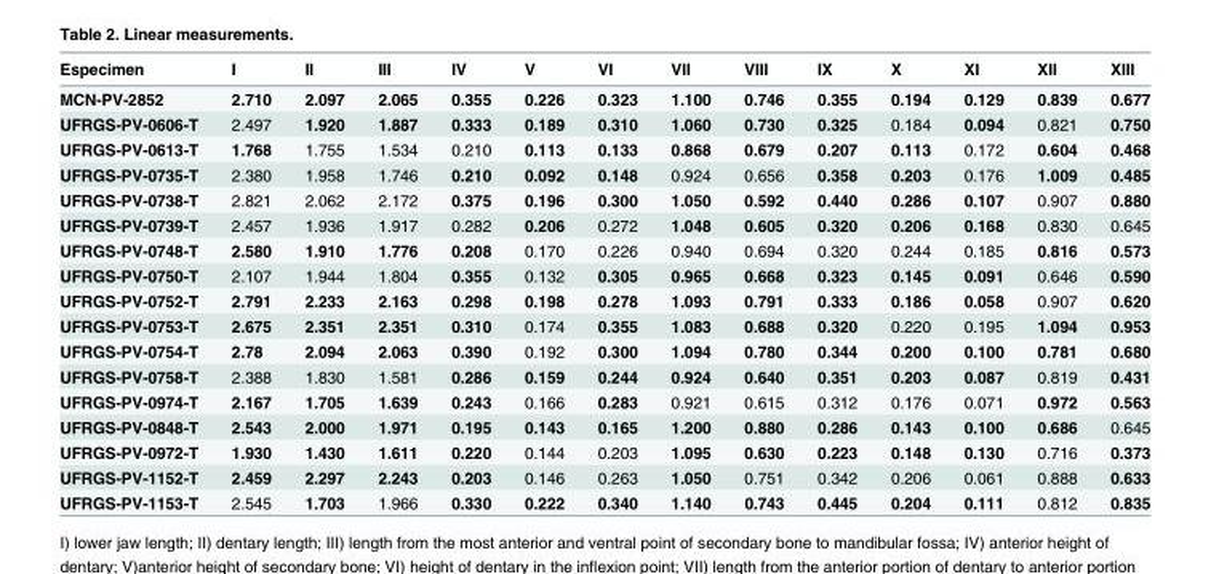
<table><thead><tr><td>Especimen</td><td>I</td><td>II</td><td>III</td><td>IV</td><td>V</td><td>VI</td><td>VII</td><td>VIII</td><td>IX</td><td>X</td><td>XI</td><td>XII</td><td>XIII</td></tr></thead><tbody><tr><td>MCN-PV-2852</td><td>2.710</td><td>2.097</td><td>2.065</td><td>0.355</td><td>0.226</td><td>0.323</td><td>1.100</td><td>0.746</td><td>0.355</td><td>0.194</td><td>0.129</td><td>0.839</td><td>0.677</td></tr><tr><td>UFRGS-PV-0606-T</td><td>2.497</td><td>1.920</td><td>1.887</td><td>0.333</td><td>0.189</td><td>0.310</td><td>1.060</td><td>0.730</td><td>0.325</td><td>0.184</td><td>0.094</td><td>0.821</td><td>0.750</td></tr><tr><td>UFRGS-PV-0613-T</td><td>1.768</td><td>1.755</td><td>1.534</td><td>0.210</td><td>0.113</td><td>0.133</td><td>0.868</td><td>0.679</td><td>0.207</td><td>0.113</td><td>0.172</td><td>0.604</td><td>0.468</td></tr><tr><td>UFRGS-PV-0735-T</td><td>2.380</td><td>1.958</td><td>1.746</td><td>0.210</td><td>0.092</td><td>0.148</td><td>0.924</td><td>0.656</td><td>0.358</td><td>0.203</td><td>0.176</td><td>1.009</td><td>0.485</td></tr><tr><td>UFRGS-PV-0738-T</td><td>2.821</td><td>2.062</td><td>2.172</td><td>0.375</td><td>0.196</td><td>0.300</td><td>1.050</td><td>0.592</td><td>0.440</td><td>0.286</td><td>0.107</td><td>0.907</td><td>0.880</td></tr><tr><td>UFRGS-PV-0739-T</td><td>2.457</td><td>1.936</td><td>1.917</td><td>0.282</td><td>0.206</td><td>0.272</td><td>1.048</td><td>0.605</td><td>0.320</td><td>0.206</td><td>0.168</td><td>0.830</td><td>0.645</td></tr><tr><td>UFRGS-PV-0748-T</td><td>2.580</td><td>1.910</td><td>1.776</td><td>0.208</td><td>0.170</td><td>0.226</td><td>0.940</td><td>0.694</td><td>0.320</td><td>0.244</td><td>0.185</td><td>0.816</td><td>0.573</td></tr><tr><td>UFRGS-PV-0750-T</td><td>2.107</td><td>1.944</td><td>1.804</td><td>0.355</td><td>0.132</td><td>0.305</td><td>0.965</td><td>0.668</td><td>0.323</td><td>0.145</td><td>0.091</td><td>0.646</td><td>0.590</td></tr><tr><td>UFRGS-PV-0752-T</td><td>2.791</td><td>2.233</td><td>2.163</td><td>0.298</td><td>0.198</td><td>0.278</td><td>1.093</td><td>0.791</td><td>0.333</td><td>0.186</td><td>0.058</td><td>0.907</td><td>0.620</td></tr><tr><td>UFRGS-PV-0753-T</td><td>2.675</td><td>2.351</td><td>2.351</td><td>0.310</td><td>0.174</td><td>0.355</td><td>1.083</td><td>0.688</td><td>0.320</td><td>0.220</td><td>0.195</td><td>1.094</td><td>0.953</td></tr><tr><td>UFRGS-PV-0754-T</td><td>2.78</td><td>2.094</td><td>2.063</td><td>0.390</td><td>0.192</td><td>0.300</td><td>1.094</td><td>0.780</td><td>0.344</td><td>0.200</td><td>0.100</td><td>0.781</td><td>0.680</td></tr><tr><td>UFRGS-PV-0758-T</td><td>2.388</td><td>1.830</td><td>1.581</td><td>0.286</td><td>0.159</td><td>0.244</td><td>0.924</td><td>0.640</td><td>0.351</td><td>0.203</td><td>0.087</td><td>0.819</td><td>0.431</td></tr><tr><td>UFRGS-PV-0974-T</td><td>2.167</td><td>1.705</td><td>1.639</td><td>0.243</td><td>0.166</td><td>0.283</td><td>0.921</td><td>0.615</td><td>0.312</td><td>0.176</td><td>0.071</td><td>0.972</td><td>0.563</td></tr><tr><td>UFRGS-PV-0848-T</td><td>2.543</td><td>2.000</td><td>1.971</td><td>0.195</td><td>0.143</td><td>0.165</td><td>1.200</td><td>0.880</td><td>0.286</td><td>0.143</td><td>0.100</td><td>0.686</td><td>0.645</td></tr><tr><td>UFRGS-PV-0972-T</td><td>1.930</td><td>1.430</td><td>1.611</td><td>0.220</td><td>0.144</td><td>0.203</td><td>1.095</td><td>0.630</td><td>0.223</td><td>0.148</td><td>0.130</td><td>0.716</td><td>0.373</td></tr><tr><td>UFRGS-PV-1152-T</td><td>2.459</td><td>2.297</td><td>2.243</td><td>0.203</td><td>0.146</td><td>0.263</td><td>1.050</td><td>0.751</td><td>0.342</td><td>0.206</td><td>0.061</td><td>0.888</td><td>0.633</td></tr><tr><td>UFRGS-PV-1153-T</td><td>2.545</td><td>1.703</td><td>1.966</td><td>0.330</td><td>0.222</td><td>0.340</td><td>1.140</td><td>0.743</td><td>0.445</td><td>0.204</td><td>0.111</td><td>0.812</td><td>0.835</td></tr></tbody></table>